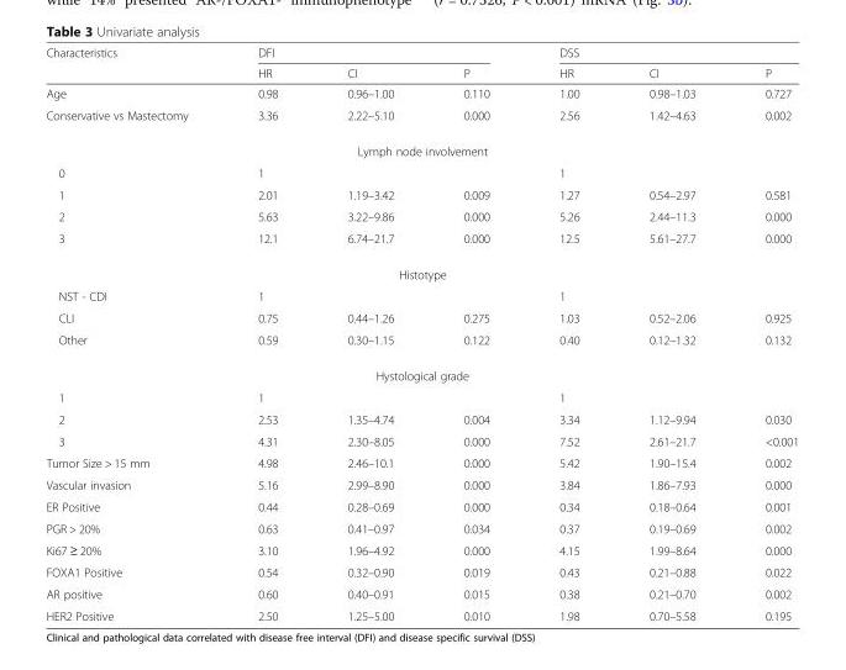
<table><thead><tr><td rowspan="2">Characteristics</td><td colspan="3">DFI</td><td colspan="3">DSS</td></tr><tr><td>HR</td><td>CI</td><td>P</td><td>HR</td><td>CI</td><td>P</td></tr></thead><tbody><tr><td>Age</td><td>0.98</td><td>0.96–1.00</td><td>0.110</td><td>1.00</td><td>0.98–1.03</td><td>0.727</td></tr><tr><td>Conservative vs Mastectomy</td><td>3.36</td><td>2.22–5.10</td><td>0.000</td><td>2.56</td><td>1.42–4.63</td><td>0.002</td></tr><tr><td colspan="7">Lymph node involvement</td></tr><tr><td>0</td><td>1</td><td colspan="2"></td><td>1</td><td colspan="2"></td></tr><tr><td>1</td><td>2.01</td><td>1.19–3.42</td><td>0.009</td><td>1.27</td><td>0.54–2.97</td><td>0.581</td></tr><tr><td>2</td><td>5.63</td><td>3.22–9.86</td><td>0.000</td><td>5.26</td><td>2.44–11.3</td><td>0.000</td></tr><tr><td>3</td><td>12.1</td><td>6.74–21.7</td><td>0.000</td><td>12.5</td><td>5.61–27.7</td><td>0.000</td></tr><tr><td colspan="7">Histotype</td></tr><tr><td>NST - CDI</td><td>1</td><td colspan="2"></td><td>1</td><td colspan="2"></td></tr><tr><td>CLI</td><td>0.75</td><td>0.44–1.26</td><td>0.275</td><td>1.03</td><td>0.52–2.06</td><td>0.925</td></tr><tr><td>Other</td><td>0.59</td><td>0.30–1.15</td><td>0.122</td><td>0.40</td><td>0.12–1.32</td><td>0.132</td></tr><tr><td colspan="7">Hystological grade</td></tr><tr><td>1</td><td>1</td><td colspan="2"></td><td>1</td><td colspan="2"></td></tr><tr><td>2</td><td>2.53</td><td>1.35–4.74</td><td>0.004</td><td>3.34</td><td>1.12–9.94</td><td>0.030</td></tr><tr><td>3</td><td>4.31</td><td>2.30–8.05</td><td>0.000</td><td>7.52</td><td>2.61–21.7</td><td>&lt;0.001</td></tr><tr><td>Tumor Size &gt; 15 mm</td><td>4.98</td><td>2.46–10.1</td><td>0.000</td><td>5.42</td><td>1.90–15.4</td><td>0.002</td></tr><tr><td>Vascular invasion</td><td>5.16</td><td>2.99–8.90</td><td>0.000</td><td>3.84</td><td>1.86–7.93</td><td>0.000</td></tr><tr><td>ER Positive</td><td>0.44</td><td>0.28–0.69</td><td>0.000</td><td>0.34</td><td>0.18–0.64</td><td>0.001</td></tr><tr><td>PGR &gt; 20%</td><td>0.63</td><td>0.41–0.97</td><td>0.034</td><td>0.37</td><td>0.19–0.69</td><td>0.002</td></tr><tr><td>Ki67 ≥ 20%</td><td>3.10</td><td>1.96–4.92</td><td>0.000</td><td>4.15</td><td>1.99–8.64</td><td>0.000</td></tr><tr><td>FOXA1 Positive</td><td>0.54</td><td>0.32–0.90</td><td>0.019</td><td>0.43</td><td>0.21–0.88</td><td>0.022</td></tr><tr><td>AR positive</td><td>0.60</td><td>0.40–0.91</td><td>0.015</td><td>0.38</td><td>0.21–0.70</td><td>0.002</td></tr><tr><td>HER2 Positive</td><td>2.50</td><td>1.25–5.00</td><td>0.010</td><td>1.98</td><td>0.70–5.58</td><td>0.195</td></tr></tbody></table>